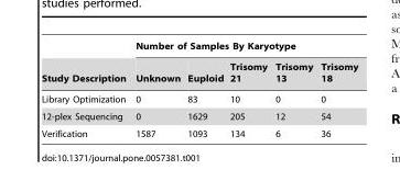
<table><thead><tr><td rowspan="2">Study Description</td><td colspan="5">Number of Samples By Karyotype</td></tr><tr><td>Unknown</td><td>Euploid</td><td>Trisomy 21</td><td>Trisomy 13</td><td>Trisomy 18</td></tr></thead><tbody><tr><td>Library Optimization</td><td>0</td><td>83</td><td>10</td><td>0</td><td>0</td></tr><tr><td>12-plex Sequencing</td><td>0</td><td>1629</td><td>205</td><td>12</td><td>54</td></tr><tr><td>Verification</td><td>1587</td><td>1093</td><td>134</td><td>6</td><td>36</td></tr></tbody></table>